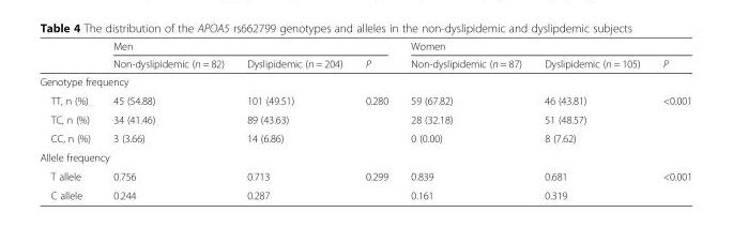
<table><thead><tr><td rowspan="2"></td><td colspan="3">Men</td><td colspan="3">Women</td></tr><tr><td>Non-dyslipidemic (n = 82)</td><td>Dyslipidemic (n = 204)</td><td>P</td><td>Non-dyslipidemic (n = 87)</td><td>Dyslipidemic (n = 105)</td><td>P</td></tr></thead><tbody><tr><td colspan="7">Genotype frequency</td></tr><tr><td>TT, n (%)</td><td>45 (54.88)</td><td>101 (49.51)</td><td>0.280</td><td>59 (67.82)</td><td>46 (43.81)</td><td>&lt;0.001</td></tr><tr><td>TC, n (%)</td><td>34 (41.46)</td><td>89 (43.63)</td><td></td><td>28 (32.18)</td><td>51 (48.57)</td><td></td></tr><tr><td>CC, n (%)</td><td>3 (3.66)</td><td>14 (6.86)</td><td></td><td>0 (0.00)</td><td>8 (7.62)</td><td></td></tr><tr><td colspan="7">Allele frequency</td></tr><tr><td>T allele</td><td>0.756</td><td>0.713</td><td>0.299</td><td>0.839</td><td>0.681</td><td>&lt;0.001</td></tr><tr><td>C allele</td><td>0.244</td><td>0.287</td><td></td><td>0.161</td><td>0.319</td><td></td></tr></tbody></table>